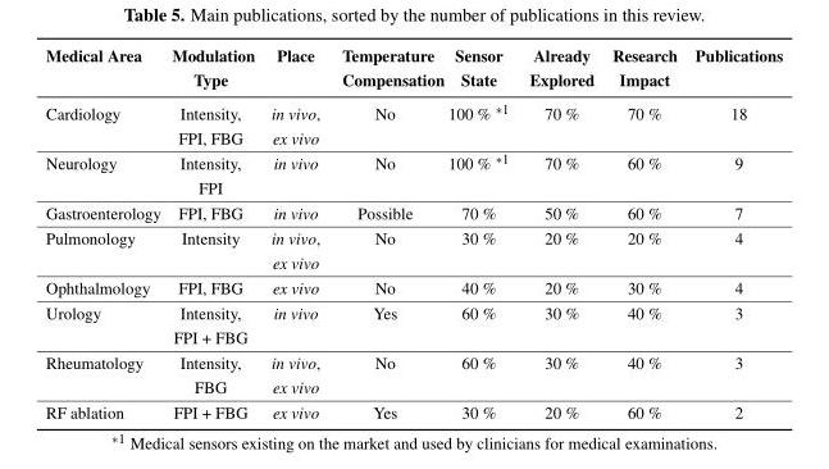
<table><thead><tr><td>Medical Area</td><td>Modulation Type</td><td>Place</td><td>Temperature Compensation</td><td>Sensor State</td><td>Already Explored</td><td>Research Impact</td><td>Publications</td></tr></thead><tbody><tr><td>Cardiology</td><td>Intensity, FPI, FBG</td><td>in vivo, ex vivo</td><td>No</td><td>100 % ∗1</td><td>70 %</td><td>70 %</td><td>18</td></tr><tr><td>Neurology</td><td>Intensity, FPI</td><td>in vivo</td><td>No</td><td>100 % ∗1</td><td>70 %</td><td>60 %</td><td>9</td></tr><tr><td>Gastroenterology</td><td>FPI, FBG</td><td>in vivo</td><td>Possible</td><td>70 %</td><td>50 %</td><td>60 %</td><td>7</td></tr><tr><td>Pulmonology</td><td>Intensity</td><td>in vivo, ex vivo</td><td>No</td><td>30 %</td><td>20 %</td><td>20 %</td><td>4</td></tr><tr><td>Ophthalmology</td><td>FPI, FBG</td><td>ex vivo</td><td>No</td><td>40 %</td><td>20 %</td><td>30 %</td><td>4</td></tr><tr><td>Urology</td><td>Intensity, FPI + FBG</td><td>in vivo</td><td>Yes</td><td>60 %</td><td>30 %</td><td>40 %</td><td>3</td></tr><tr><td>Rheumatology</td><td>Intensity, FBG</td><td>in vivo, ex vivo</td><td>No</td><td>60 %</td><td>30 %</td><td>40 %</td><td>3</td></tr><tr><td>RF ablation</td><td>FPI + FBG</td><td>ex vivo</td><td>Yes</td><td>30 %</td><td>20 %</td><td>60 %</td><td>2</td></tr></tbody></table>